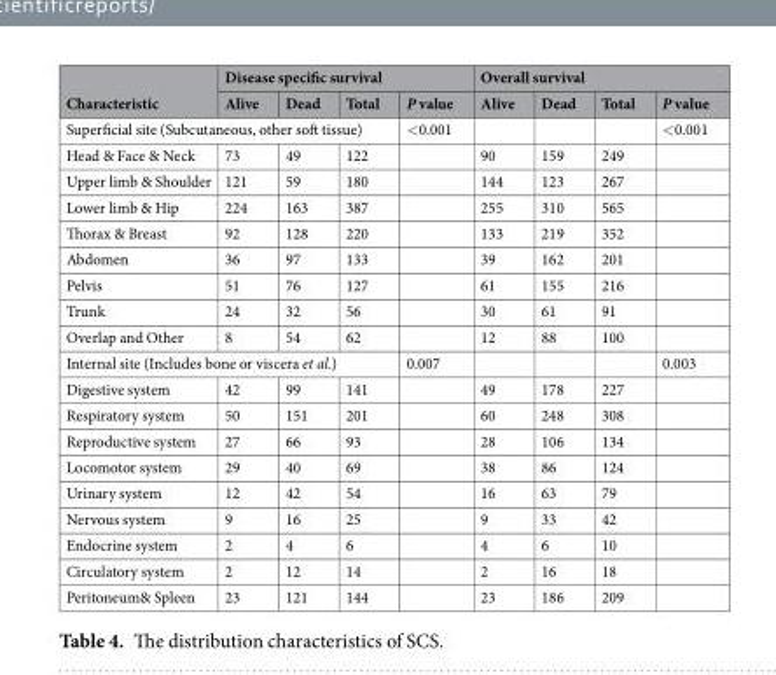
<table><thead><tr><td rowspan="2">Characteristic</td><td colspan="4">Disease specific survival</td><td colspan="4">Overall survival</td></tr><tr><td>Alive</td><td>Dead</td><td>Total</td><td>P value</td><td>Alive</td><td>Dead</td><td>Total</td><td>P value</td></tr></thead><tbody><tr><td colspan="4">Superficial site (Subcutaneous, other soft tissue)</td><td>&lt;0.001</td><td></td><td></td><td></td><td>&lt;0.001</td></tr><tr><td>Head &amp; Face &amp; Neck</td><td>73</td><td>49</td><td>122</td><td></td><td>90</td><td>159</td><td>249</td><td></td></tr><tr><td>Upper limb &amp; Shoulder</td><td>121</td><td>59</td><td>180</td><td></td><td>144</td><td>123</td><td>267</td><td></td></tr><tr><td>Lower limb &amp; Hip</td><td>224</td><td>163</td><td>387</td><td></td><td>255</td><td>310</td><td>565</td><td></td></tr><tr><td>Thorax &amp; Breast</td><td>92</td><td>128</td><td>220</td><td></td><td>133</td><td>219</td><td>352</td><td></td></tr><tr><td>Abdomen</td><td>36</td><td>97</td><td>133</td><td></td><td>39</td><td>162</td><td>201</td><td></td></tr><tr><td>Pelvis</td><td>51</td><td>76</td><td>127</td><td></td><td>61</td><td>155</td><td>216</td><td></td></tr><tr><td>Trunk</td><td>24</td><td>32</td><td>56</td><td></td><td>30</td><td>61</td><td>91</td><td></td></tr><tr><td>Overlap and Other</td><td>8</td><td>54</td><td>62</td><td></td><td>12</td><td>88</td><td>100</td><td></td></tr><tr><td colspan="4">Internal site (Includes bone or viscera et al.)</td><td>0.007</td><td></td><td></td><td></td><td>0.003</td></tr><tr><td>Digestive system</td><td>42</td><td>99</td><td>141</td><td></td><td>49</td><td>178</td><td>227</td><td></td></tr><tr><td>Respiratory system</td><td>50</td><td>151</td><td>201</td><td></td><td>60</td><td>248</td><td>308</td><td></td></tr><tr><td>Reproductive system</td><td>27</td><td>66</td><td>93</td><td></td><td>28</td><td>106</td><td>134</td><td></td></tr><tr><td>Locomotor system</td><td>29</td><td>40</td><td>69</td><td></td><td>38</td><td>86</td><td>124</td><td></td></tr><tr><td>Urinary system</td><td>12</td><td>42</td><td>54</td><td></td><td>16</td><td>63</td><td>79</td><td></td></tr><tr><td>Nervous system</td><td>9</td><td>16</td><td>25</td><td></td><td>9</td><td>33</td><td>42</td><td></td></tr><tr><td>Endocrine system</td><td>2</td><td>4</td><td>6</td><td></td><td>4</td><td>6</td><td>10</td><td></td></tr><tr><td>Circulatory system</td><td>2</td><td>12</td><td>14</td><td></td><td>2</td><td>16</td><td>18</td><td></td></tr><tr><td>Peritoneum&amp; Spleen</td><td>23</td><td>121</td><td>144</td><td></td><td>23</td><td>186</td><td>209</td><td></td></tr></tbody></table>